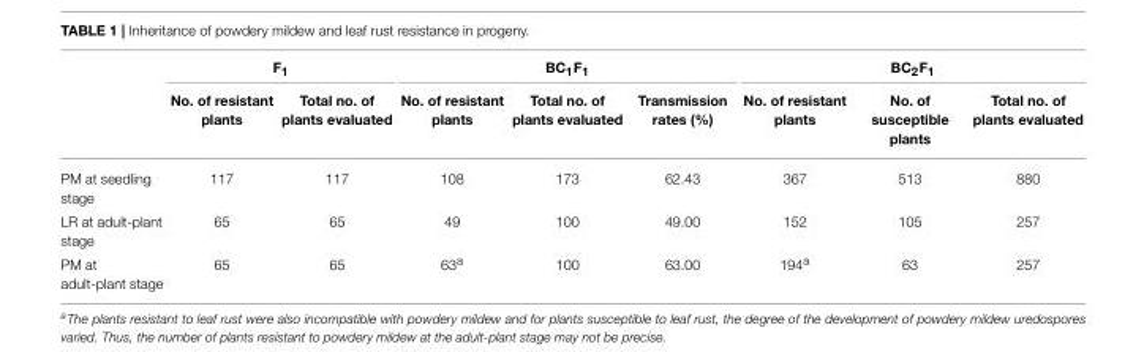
<table><thead><tr><td rowspan="2"></td><td colspan="2">F<sub>1</sub></td><td colspan="3">BC<sub>1</sub>F<sub>1</sub></td><td colspan="3">BC<sub>2</sub>F<sub>1</sub></td></tr><tr><td>No. of resistant plants</td><td>Total no. of plants evaluated</td><td>No. of resistant plants</td><td>Total no. of plants evaluated</td><td>Transmission rates (%)</td><td>No. of resistant plants</td><td>No. of susceptible plants</td><td>Total no. of plants evaluated</td></tr></thead><tbody><tr><td>PM at seedling stage</td><td>117</td><td>117</td><td>108</td><td>173</td><td>62.43</td><td>367</td><td>513</td><td>880</td></tr><tr><td>LR at adult-plant stage</td><td>65</td><td>65</td><td>49</td><td>100</td><td>49.00</td><td>152</td><td>105</td><td>257</td></tr><tr><td>PM at adult-plant stage</td><td>65</td><td>65</td><td>63<sup>a</sup></td><td>100</td><td>63.00</td><td>194<sup>a</sup></td><td>63</td><td>257</td></tr></tbody></table>